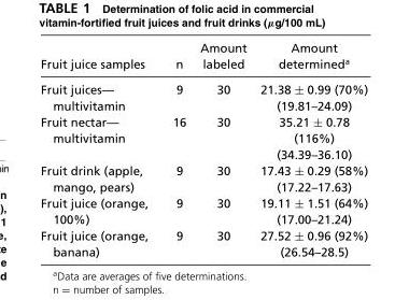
<table><thead><tr><td>Fruit juice samples</td><td>n</td><td>Amount labeled</td><td>Amount determined<sup>a</sup></td></tr></thead><tbody><tr><td>Fruit juices— multivitamin</td><td>9</td><td>30</td><td>21.38 ± 0.99 (70%) (19.81–24.09)</td></tr><tr><td>Fruit nectar— multivitamin</td><td>16</td><td>30</td><td>35.21 ± 0.78 (116%) (34.39–36.10)</td></tr><tr><td>Fruit drink (apple, mango, pears)</td><td>9</td><td>30</td><td>17.43 ± 0.29 (58%) (17.22–17.63)</td></tr><tr><td>Fruit juice (orange, 100%)</td><td>9</td><td>30</td><td>19.11 ± 1.51 (64%) (17.00–21.24)</td></tr><tr><td>Fruit juice (orange, banana)</td><td>9</td><td>30</td><td>27.52 ± 0.96 (92%) (26.54–28.5)</td></tr></tbody></table>